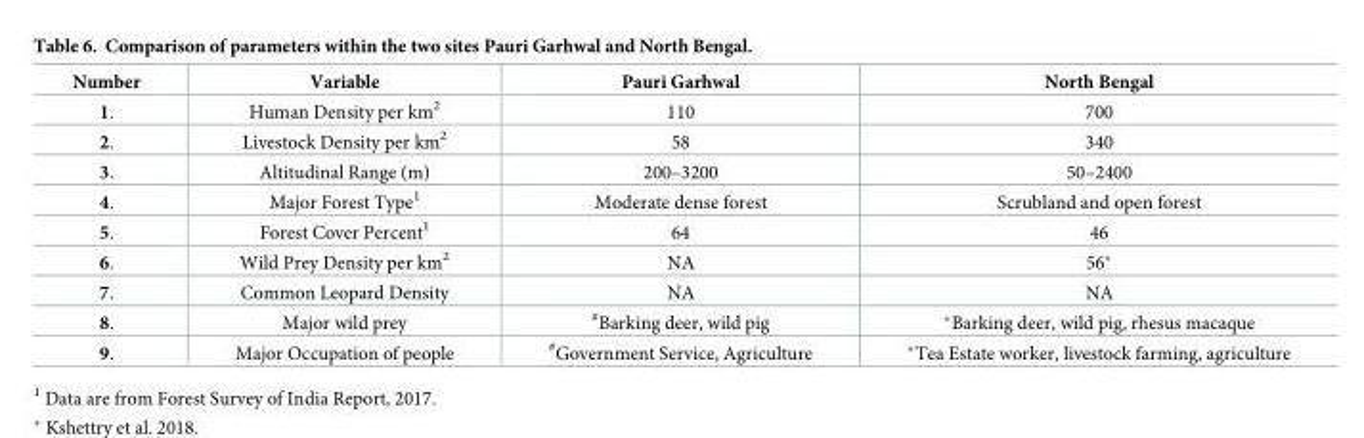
<table><thead><tr><td>Number</td><td>Variable</td><td>Pauri Garhwal</td><td>North Bengal</td></tr></thead><tbody><tr><td>1.</td><td>Human Density per km<sup>2</sup></td><td>110</td><td>700</td></tr><tr><td>2.</td><td>Livestock Density per km<sup>2</sup></td><td>58</td><td>340</td></tr><tr><td>3.</td><td>Altitudinal Range (m)</td><td>200–3200</td><td>50–2400</td></tr><tr><td>4.</td><td>Major Forest Type<sup>1</sup></td><td>Moderate dense forest</td><td>Scrubland and open forest</td></tr><tr><td>5.</td><td>Forest Cover Percent<sup>1</sup></td><td>64</td><td>46</td></tr><tr><td>6.</td><td>Wild Prey Density per km<sup>2</sup></td><td>NA</td><td>56*</td></tr><tr><td>7.</td><td>Common Leopard Density</td><td>NA</td><td>NA</td></tr><tr><td>8.</td><td>Major wild prey</td><td><sup>#</sup>Barking deer, wild pig</td><td>*Barking deer, wild pig, rhesus macaque</td></tr><tr><td>9.</td><td>Major Occupation of people</td><td><sup>#</sup>Government Service, Agriculture</td><td>*Tea Estate worker, livestock farming, agriculture</td></tr></tbody></table>